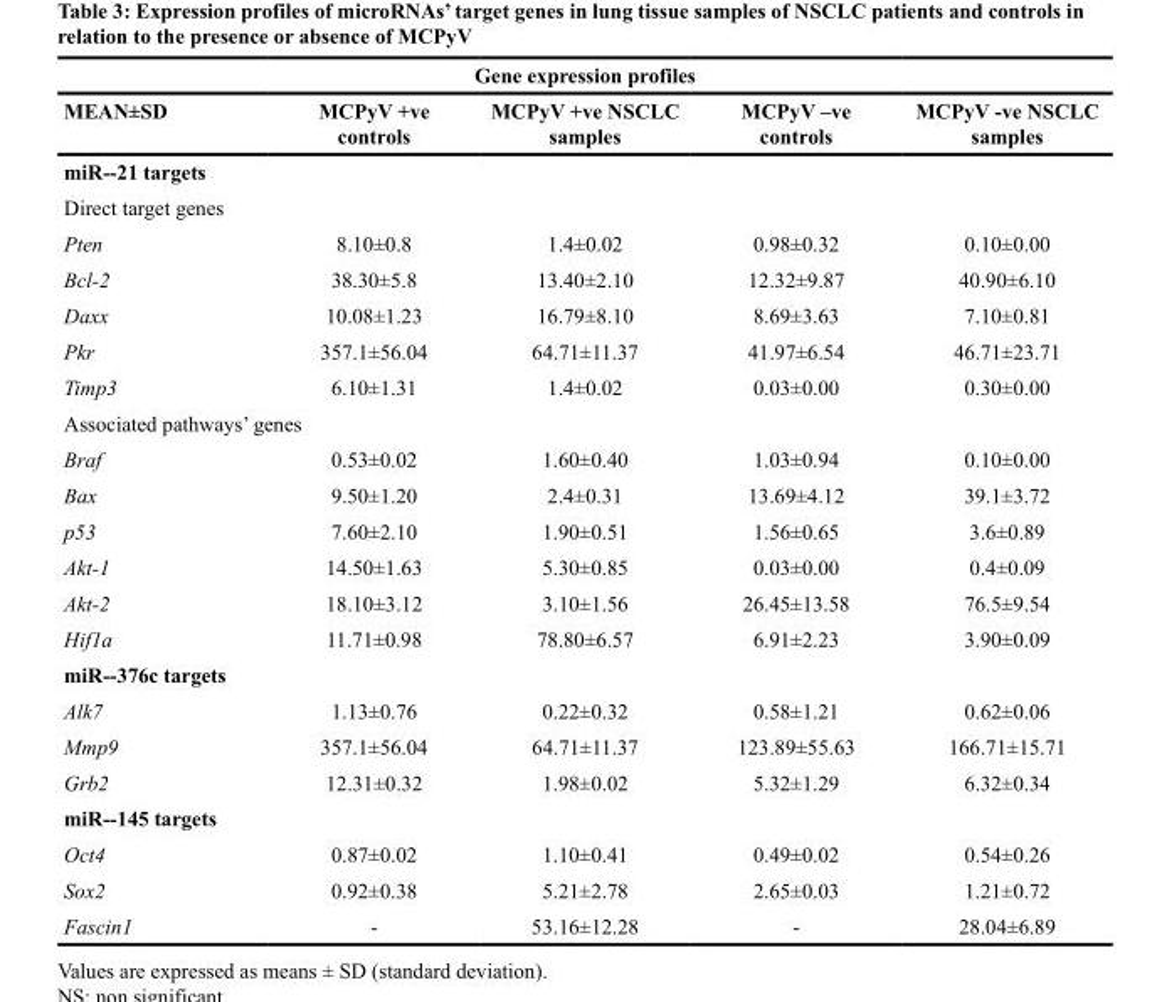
<table><thead><tr><td colspan="5">Gene expression profiles</td></tr><tr><td>MEAN±SD</td><td>MCPyV +ve controls</td><td>MCPyV +ve NSCLC samples</td><td>MCPyV –ve controls</td><td>MCPyV -ve NSCLC samples</td></tr></thead><tbody><tr><td colspan="5">miR--21 targets</td></tr><tr><td colspan="5">Direct target genes</td></tr><tr><td>Pten</td><td>8.10±0.8</td><td>1.4±0.02</td><td>0.98±0.32</td><td>0.10±0.00</td></tr><tr><td>Bcl-2</td><td>38.30±5.8</td><td>13.40±2.10</td><td>12.32±9.87</td><td>40.90±6.10</td></tr><tr><td>Daxx</td><td>10.08±1.23</td><td>16.79±8.10</td><td>8.69±3.63</td><td>7.10±0.81</td></tr><tr><td>Pkr</td><td>357.1±56.04</td><td>64.71±11.37</td><td>41.97±6.54</td><td>46.71±23.71</td></tr><tr><td>Timp3</td><td>6.10±1.31</td><td>1.4±0.02</td><td>0.03±0.00</td><td>0.30±0.00</td></tr><tr><td colspan="5">Associated pathways’ genes</td></tr><tr><td>Braf</td><td>0.53±0.02</td><td>1.60±0.40</td><td>1.03±0.94</td><td>0.10±0.00</td></tr><tr><td>Bax</td><td>9.50±1.20</td><td>2.4±0.31</td><td>13.69±4.12</td><td>39.1±3.72</td></tr><tr><td>p53</td><td>7.60±2.10</td><td>1.90±0.51</td><td>1.56±0.65</td><td>3.6±0.89</td></tr><tr><td>Akt-1</td><td>14.50±1.63</td><td>5.30±0.85</td><td>0.03±0.00</td><td>0.4±0.09</td></tr><tr><td>Akt-2</td><td>18.10±3.12</td><td>3.10±1.56</td><td>26.45±13.58</td><td>76.5±9.54</td></tr><tr><td>Hif1a</td><td>11.71±0.98</td><td>78.80±6.57</td><td>6.91±2.23</td><td>3.90±0.09</td></tr><tr><td colspan="5">miR--376c targets</td></tr><tr><td>Alk7</td><td>1.13±0.76</td><td>0.22±0.32</td><td>0.58±1.21</td><td>0.62±0.06</td></tr><tr><td>Mmp9</td><td>357.1±56.04</td><td>64.71±11.37</td><td>123.89±55.63</td><td>166.71±15.71</td></tr><tr><td>Grb2</td><td>12.31±0.32</td><td>1.98±0.02</td><td>5.32±1.29</td><td>6.32±0.34</td></tr><tr><td colspan="5">miR--145 targets</td></tr><tr><td>Oct4</td><td>0.87±0.02</td><td>1.10±0.41</td><td>0.49±0.02</td><td>0.54±0.26</td></tr><tr><td>Sox2</td><td>0.92±0.38</td><td>5.21±2.78</td><td>2.65±0.03</td><td>1.21±0.72</td></tr><tr><td>Fascin1</td><td>-</td><td>53.16±12.28</td><td>-</td><td>28.04±6.89</td></tr></tbody></table>